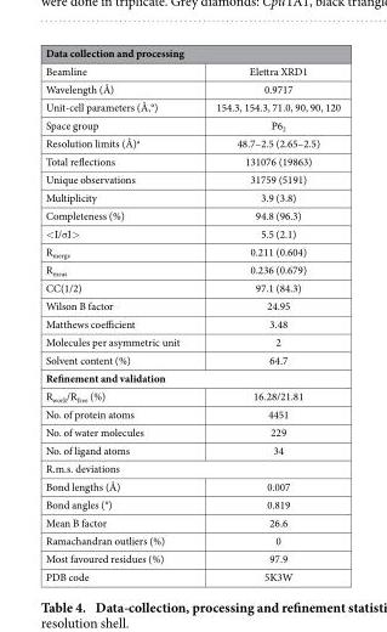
<table><thead><tr><td colspan="2">Data collection and processing</td></tr><tr><td>Beamline</td><td>Elettra XRD1</td></tr></thead><tbody><tr><td>Wavelength (Å)</td><td>0.9717</td></tr><tr><td>Unit-cell parameters (Å,°)</td><td>154.3, 154.3, 71.0, 90, 90, 120</td></tr><tr><td>Space group</td><td>P6<sub>2</sub></td></tr><tr><td>Resolution limits (Å)<sup>a</sup></td><td>48.7–2.5 (2.65–2.5)</td></tr><tr><td>Total reflections</td><td>131076 (19863)</td></tr><tr><td>Unique observations</td><td>31759 (5191)</td></tr><tr><td>Multiplicity</td><td>3.9 (3.8)</td></tr><tr><td>Completeness (%)</td><td>94.8 (96.3)</td></tr><tr><td>&lt; I/σ I&gt;</td><td>5.5 (2.1)</td></tr><tr><td>R<sub>merge</sub></td><td>0.211 (0.604)</td></tr><tr><td>R<sub>meas</sub></td><td>0.236 (0.679)</td></tr><tr><td>CC(1/2)</td><td>97.1 (84.3)</td></tr><tr><td>Wilson B factor</td><td>24.95</td></tr><tr><td>Matthews coefficient</td><td>3.48</td></tr><tr><td>Molecules per asymmetric unit</td><td>2</td></tr><tr><td>Solvent content (%)</td><td>64.7</td></tr><tr><td colspan="2">Refinement and validation</td></tr><tr><td>R<sub>work</sub>/R<sub>free</sub> (%)</td><td>16.28/21.81</td></tr><tr><td>No. of protein atoms</td><td>4451</td></tr><tr><td>No. of water molecules</td><td>229</td></tr><tr><td>No. of ligand atoms</td><td>34</td></tr><tr><td colspan="2">R.m.s. deviations</td></tr><tr><td>Bond lengths (Å)</td><td>0.007</td></tr><tr><td>Bond angles (°)</td><td>0.819</td></tr><tr><td>Mean B factor</td><td>26.6</td></tr><tr><td>Ramachandran outliers (%)</td><td>0</td></tr><tr><td>Most favoured residues (%)</td><td>97.9</td></tr><tr><td>PDB code</td><td>5K3W</td></tr></tbody></table>